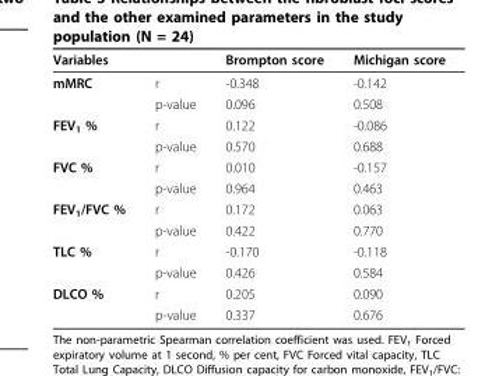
<table><thead><tr><td>Variables</td><td></td><td>Brompton score</td><td>Michigan score</td></tr></thead><tbody><tr><td rowspan="2">mMRC</td><td>r</td><td>-0.348</td><td>-0.142</td></tr><tr><td>p-value</td><td>0.096</td><td>0.508</td></tr><tr><td rowspan="2">FEV<sub>1</sub> %</td><td>r</td><td>0.122</td><td>-0.086</td></tr><tr><td>p-value</td><td>0.570</td><td>0.688</td></tr><tr><td rowspan="2">FVC %</td><td>r</td><td>0.010</td><td>-0.157</td></tr><tr><td>p-value</td><td>0.964</td><td>0.463</td></tr><tr><td rowspan="2">FEV<sub>1</sub>/FVC %</td><td>r</td><td>0.172</td><td>0.063</td></tr><tr><td>p-value</td><td>0.422</td><td>0.770</td></tr><tr><td rowspan="2">TLC %</td><td>r</td><td>-0.170</td><td>-0.118</td></tr><tr><td>p-value</td><td>0.426</td><td>0.584</td></tr><tr><td rowspan="2">DLCO %</td><td>r</td><td>0.205</td><td>0.090</td></tr><tr><td>p-value</td><td>0.337</td><td>0.676</td></tr></tbody></table>